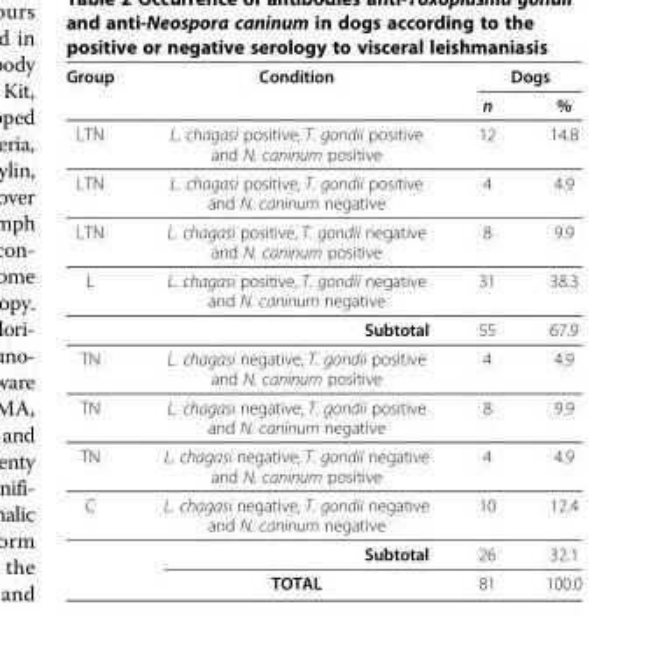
<table><thead><tr><td rowspan="2">Group</td><td rowspan="2">Condition</td><td colspan="2">Dogs</td></tr><tr><td>n</td><td>%</td></tr></thead><tbody><tr><td>LTN</td><td>L. chagasi positive, T. gondii positive and N. caninum positive</td><td>12</td><td>14.8</td></tr><tr><td>LTN</td><td>L. chagasi positive, T. gondii positive and N. caninum negative</td><td>4</td><td>4.9</td></tr><tr><td>LTN</td><td>L. chagasi positive, T. gondii negative and N. caninum positive</td><td>8</td><td>9.9</td></tr><tr><td rowspan="2">L</td><td>L. chagasi positive, T. gondii negative and N. caninum negative</td><td>31</td><td>38.3</td></tr><tr><td>Subtotal</td><td>55</td><td>67.9</td></tr><tr><td>TN</td><td>L. chagasi negative, T. gondii positive and N. caninum positive</td><td>4</td><td>4.9</td></tr><tr><td>TN</td><td>L. chagasi negative, T. gondii positive and N. caninum negative</td><td>8</td><td>9.9</td></tr><tr><td>TN</td><td>L. chagasi negative, T. gondii negative and N. caninum positive</td><td>4</td><td>4.9</td></tr><tr><td rowspan="3">C</td><td>L. chagasi negative, T. gondii negative and N. caninum negative</td><td>10</td><td>12.4</td></tr><tr><td>Subtotal</td><td>26</td><td>32.1</td></tr><tr><td>TOTAL</td><td>81</td><td>100.0</td></tr></tbody></table>